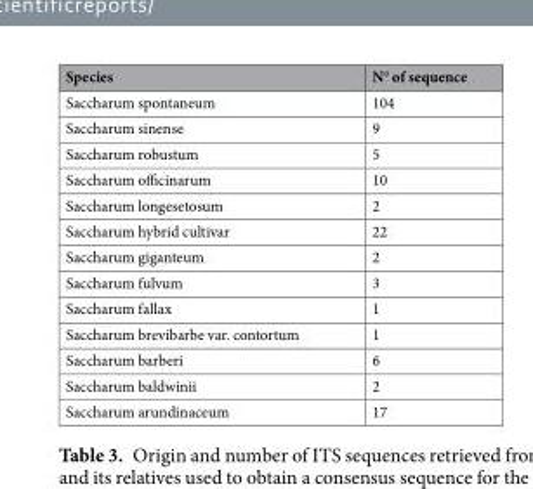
<table><thead><tr><td>Species</td><td>N° of sequence</td></tr></thead><tbody><tr><td>Saccharum spontaneum</td><td>104</td></tr><tr><td>Saccharum sinense</td><td>9</td></tr><tr><td>Saccharum robustum</td><td>5</td></tr><tr><td>Saccharum officinarum</td><td>10</td></tr><tr><td>Saccharum longesetosum</td><td>2</td></tr><tr><td>Saccharum hybrid cultivar</td><td>22</td></tr><tr><td>Saccharum giganteum</td><td>2</td></tr><tr><td>Saccharum fulvum</td><td>3</td></tr><tr><td>Saccharum fallax</td><td>1</td></tr><tr><td>Saccharum brevibarbe var. contortum</td><td>1</td></tr><tr><td>Saccharum barberi</td><td>6</td></tr><tr><td>Saccharum baldwinii</td><td>2</td></tr><tr><td>Saccharum arundinaceum</td><td>17</td></tr></tbody></table>